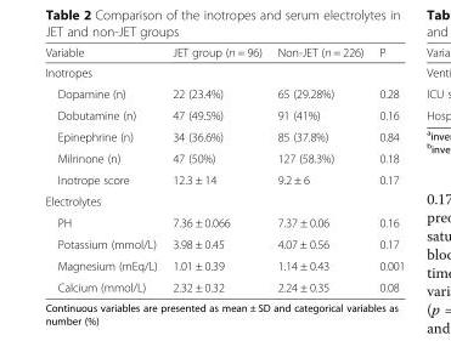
<table><thead><tr><td>Variable</td><td>JET group (n = 96)</td><td>Non-JET (n = 226)</td><td>P</td></tr></thead><tbody><tr><td colspan="4">Inotropes</td></tr><tr><td>Dopamine (n)</td><td>22 (23.4%)</td><td>65 (29.28%)</td><td>0.28</td></tr><tr><td>Dobutamine (n)</td><td>47 (49.5%)</td><td>91 (41%)</td><td>0.16</td></tr><tr><td>Epinephrine (n)</td><td>34 (36.6%)</td><td>85 (37.8%)</td><td>0.84</td></tr><tr><td>Milrinone (n)</td><td>47 (50%)</td><td>127 (58.3%)</td><td>0.18</td></tr><tr><td>Inotrope score</td><td>12.3 ± 14</td><td>9.2 ± 6</td><td>0.17</td></tr><tr><td colspan="4">Electrolytes</td></tr><tr><td>PH</td><td>7.36 ± 0.066</td><td>7.37 ± 0.06</td><td>0.16</td></tr><tr><td>Potassium (mmol/L)</td><td>3.98 ± 0.45</td><td>4.07 ± 0.56</td><td>0.17</td></tr><tr><td>Magnesium (mEq/L)</td><td>1.01 ± 0.39</td><td>1.14 ± 0.43</td><td>0.001</td></tr><tr><td>Calcium (mmol/L)</td><td>2.32 ± 0.32</td><td>2.24 ± 0.35</td><td>0.08</td></tr></tbody></table>